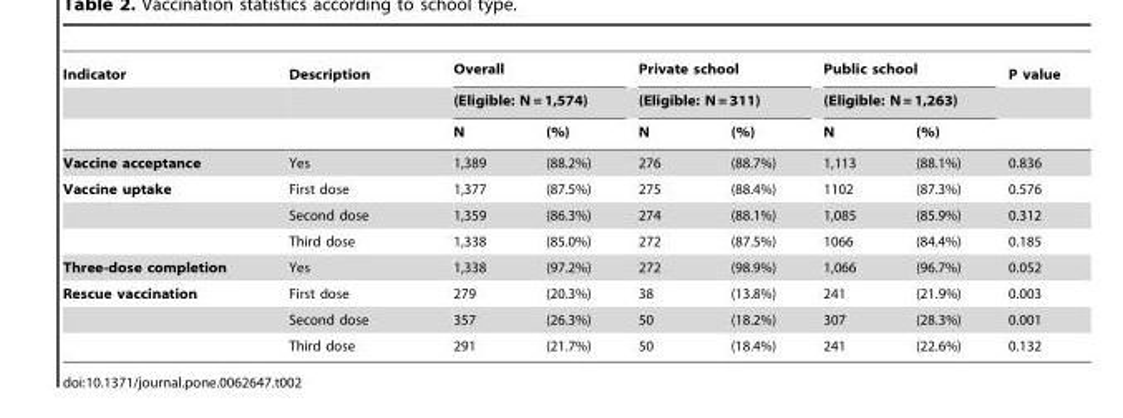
<table><thead><tr><td rowspan="3">Indicator</td><td rowspan="3">Description</td><td rowspan="2" colspan="2">Overall (Eligible: N = 1,574)</td><td rowspan="2" colspan="2">Private school (Eligible: N = 311)</td><td rowspan="2" colspan="2">Public school (Eligible: N = 1,263)</td><td rowspan="3">P value</td></tr><tr></tr><tr><td>N</td><td>(%)</td><td>N</td><td>(%)</td><td>N</td><td>(%)</td></tr></thead><tbody><tr><td>Vaccine acceptance</td><td>Yes</td><td>1,389</td><td>(88.2%)</td><td>276</td><td>(88.7%)</td><td>1,113</td><td>(88.1%)</td><td>0.836</td></tr><tr><td rowspan="3">Vaccine uptake</td><td>First dose</td><td>1,377</td><td>(87.5%)</td><td>275</td><td>(88.4%)</td><td>1102</td><td>(87.3%)</td><td>0.576</td></tr><tr><td>Second dose</td><td>1,359</td><td>(86.3%)</td><td>274</td><td>(88.1%)</td><td>1,085</td><td>(85.9%)</td><td>0.312</td></tr><tr><td>Third dose</td><td>1,338</td><td>(85.0%)</td><td>272</td><td>(87.5%)</td><td>1066</td><td>(84.4%)</td><td>0.185</td></tr><tr><td>Three-dose completion</td><td>Yes</td><td>1,338</td><td>(97.2%)</td><td>272</td><td>(98.9%)</td><td>1,066</td><td>(96.7%)</td><td>0.052</td></tr><tr><td rowspan="3">Rescue vaccination</td><td>First dose</td><td>279</td><td>(20.3%)</td><td>38</td><td>(13.8%)</td><td>241</td><td>(21.9%)</td><td>0.003</td></tr><tr><td>Second dose</td><td>357</td><td>(26.3%)</td><td>50</td><td>(18.2%)</td><td>307</td><td>(28.3%)</td><td>0.001</td></tr><tr><td>Third dose</td><td>291</td><td>(21.7%)</td><td>50</td><td>(18.4%)</td><td>241</td><td>(22.6%)</td><td>0.132</td></tr></tbody></table>